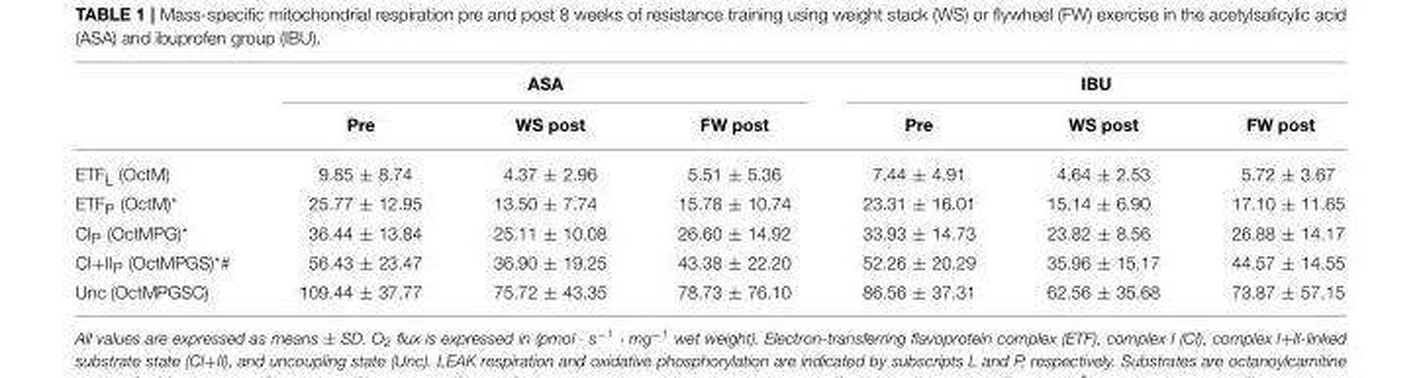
<table><thead><tr><td rowspan="2"></td><td colspan="3">ASA</td><td colspan="3">IBU</td></tr><tr><td>Pre</td><td>WS post</td><td>FW post</td><td>Pre</td><td>WS post</td><td>FW post</td></tr></thead><tbody><tr><td>ETF<sub>L</sub> (OctM)</td><td>9.85 ± 8.74</td><td>4.37 ± 2.96</td><td>5.51 ± 5.36</td><td>7.44 ± 4.91</td><td>4.64 ± 2.53</td><td>5.72 ± 3.67</td></tr><tr><td>ETF<sub>P</sub> (OctM)*</td><td>25.77 ± 12.95</td><td>13.50 ± 7.74</td><td>15.78 ± 10.74</td><td>23.31 ± 16.01</td><td>15.14 ± 6.90</td><td>17.10 ± 11.65</td></tr><tr><td>CI<sub>P</sub> (OctMPG)*</td><td>36.44 ± 13.84</td><td>25.11 ± 10.08</td><td>26.60 ± 14.92</td><td>33.93 ± 14.73</td><td>23.82 ± 8.56</td><td>26.88 ± 14.17</td></tr><tr><td>CI+II<sub>P</sub> (OctMPGS)<sup>*#</sup></td><td>56.43 ± 23.47</td><td>36.90 ± 19.25</td><td>43.38 ± 22.20</td><td>52.26 ± 20.29</td><td>35.96 ± 15.17</td><td>44.57 ± 14.55</td></tr><tr><td>Unc (OctMPGSC)</td><td>109.44 ± 37.77</td><td>75.72 ± 43.35</td><td>78.73 ± 76.10</td><td>86.56 ± 37.31</td><td>62.56 ± 35.68</td><td>73.87 ± 57.15</td></tr></tbody></table>